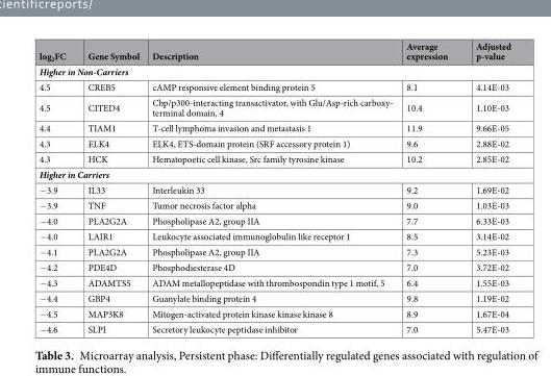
<table><thead><tr><td>log<sub>2</sub>FC</td><td>Gene Symbol</td><td>Description</td><td>Average expression</td><td>Adjusted p-value</td></tr></thead><tbody><tr><td colspan="5">Higher in Non-Carriers</td></tr><tr><td>4.5</td><td>CREB5</td><td>cAMP responsive element binding protein 5</td><td>8.1</td><td>4.14E-03</td></tr><tr><td>4.5</td><td>CITED4</td><td>Cbp/p300-interacting transactivator, with Glu/Asp-rich carboxy- terminal domain, 4</td><td>10.4</td><td>1.10E-03</td></tr><tr><td>4.4</td><td>TIAM1</td><td>T-cell lymphoma invasion and metastasis 1</td><td>11.9</td><td>9.66E-05</td></tr><tr><td>4.3</td><td>ELK4</td><td>ELK4, ETS-domain protein (SRF accessory protein 1)</td><td>9.6</td><td>2.88E-02</td></tr><tr><td>4.3</td><td>HCK</td><td>Hematopoetic cell kinase, Src family tyrosine kinase</td><td>10.2</td><td>2.85E-02</td></tr><tr><td colspan="5">Higher in Carriers</td></tr><tr><td>−3.9</td><td>IL33</td><td>Interleukin 33</td><td>9.2</td><td>1.69E-02</td></tr><tr><td>−3.9</td><td>TNF</td><td>Tumor necrosis factor alpha</td><td>9.0</td><td>1.03E-03</td></tr><tr><td>−4.0</td><td>PLA2G2A</td><td>Phospholipase A2, group IIA</td><td>7.7</td><td>6.33E-03</td></tr><tr><td>−4.0</td><td>LAIR1</td><td>Leukocyte associated immunoglobulin like receptor 1</td><td>8.5</td><td>3.14E-02</td></tr><tr><td>−4.1</td><td>PLA2G2A</td><td>Phospholipase A2, group IIA</td><td>7.3</td><td>5.23E-03</td></tr><tr><td>−4.2</td><td>PDE4D</td><td>Phosphodiesterase 4D</td><td>7.0</td><td>3.72E-02</td></tr><tr><td>−4.3</td><td>ADAMTS5</td><td>ADAM metallopeptidase with thrombospondin type 1 motif, 5</td><td>6.4</td><td>1.55E-03</td></tr><tr><td>−4.4</td><td>GBP4</td><td>Guanylate binding protein 4</td><td>9.8</td><td>1.19E-02</td></tr><tr><td>−4.5</td><td>MAP3K8</td><td>Mitogen-activated protein kinase kinase kinase 8</td><td>8.9</td><td>1.67E-04</td></tr><tr><td>−4.6</td><td>SLPI</td><td>Secretory leukocyte peptidase inhibitor</td><td>7.0</td><td>5.47E-03</td></tr></tbody></table>